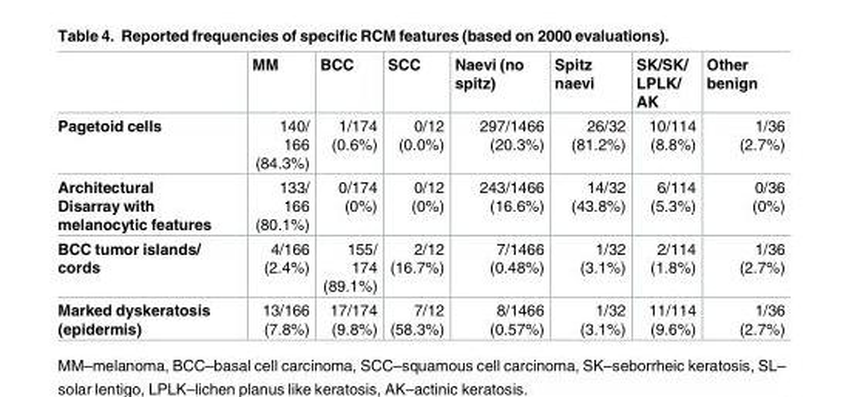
<table><thead><tr><td></td><td>MM</td><td>BCC</td><td>SCC</td><td>Naevi (no spitz)</td><td>Spitz naevi</td><td>SK/SK/ LPLK/ AK</td><td>Other benign</td></tr></thead><tbody><tr><td>Pagetoid cells</td><td>140/ 166 (84.3%)</td><td>1/174 (0.6%)</td><td>0/12 (0.0%)</td><td>297/1466 (20.3%)</td><td>26/32 (81.2%)</td><td>10/114 (8.8%)</td><td>1/36 (2.7%)</td></tr><tr><td>Architectural Disarray with melanocytic features</td><td>133/ 166 (80.1%)</td><td>0/174 (0%)</td><td>0/12 (0%)</td><td>243/1466 (16.6%)</td><td>14/32 (43.8%)</td><td>6/114 (5.3%)</td><td>0/36 (0%)</td></tr><tr><td>BCC tumor islands/ cords</td><td>4/166 (2.4%)</td><td>155/ 174 (89.1%)</td><td>2/12 (16.7%)</td><td>7/1466 (0.48%)</td><td>1/32 (3.1%)</td><td>2/114 (1.8%)</td><td>1/36 (2.7%)</td></tr><tr><td>Marked dyskeratosis (epidermis)</td><td>13/166 (7.8%)</td><td>17/174 (9.8%)</td><td>7/12 (58.3%)</td><td>8/1466 (0.57%)</td><td>1/32 (3.1%)</td><td>11/114 (9.6%)</td><td>1/36 (2.7%)</td></tr></tbody></table>